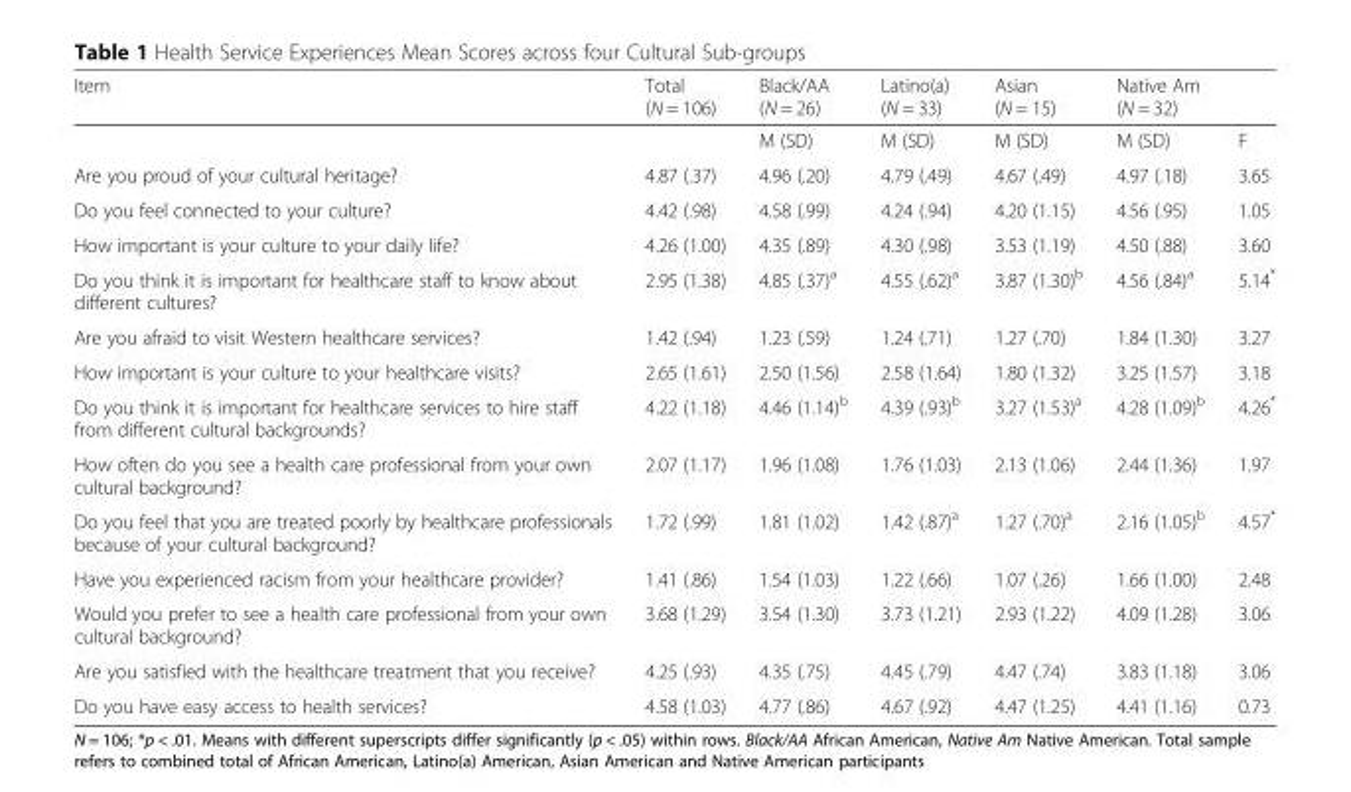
<table><thead><tr><td>Item</td><td>Total (N = 106)</td><td>Black/AA (N = 26)</td><td>Latino(a) (N = 33)</td><td>Asian (N = 15)</td><td>Native Am (N = 32)</td><td></td></tr></thead><tbody><tr><td></td><td></td><td>M (SD)</td><td>M (SD)</td><td>M (SD)</td><td>M (SD)</td><td>F</td></tr><tr><td>Are you proud of your cultural heritage?</td><td>4.87 (.37)</td><td>4.96 (.20)</td><td>4.79 (.49)</td><td>4.67 (.49)</td><td>4.97 (.18)</td><td>3.65</td></tr><tr><td>Do you feel connected to your culture?</td><td>4.42 (.98)</td><td>4.58 (.99)</td><td>4.24 (.94)</td><td>4.20 (1.15)</td><td>4.56 (.95)</td><td>1.05</td></tr><tr><td>How important is your culture to your daily life?</td><td>4.26 (1.00)</td><td>4.35 (.89)</td><td>4.30 (.98)</td><td>3.53 (1.19)</td><td>4.50 (.88)</td><td>3.60</td></tr><tr><td>Do you think it is important for healthcare staff to know about different cultures?</td><td>2.95 (1.38)</td><td>4.85 (.37)<sup>a</sup></td><td>4.55 (.62)<sup>a</sup></td><td>3.87 (1.30)<sup>b</sup></td><td>4.56 (.84)<sup>a</sup></td><td>5.14*</td></tr><tr><td>Are you afraid to visit Western healthcare services?</td><td>1.42 (.94)</td><td>1.23 (.59)</td><td>1.24 (.71)</td><td>1.27 (.70)</td><td>1.84 (1.30)</td><td>3.27</td></tr><tr><td>How important is your culture to your healthcare visits?</td><td>2.65 (1.61)</td><td>2.50 (1.56)</td><td>2.58 (1.64)</td><td>1.80 (1.32)</td><td>3.25 (1.57)</td><td>3.18</td></tr><tr><td>Do you think it is important for healthcare services to hire staff from different cultural backgrounds?</td><td>4.22 (1.18)</td><td>4.46 (1.14)<sup>b</sup></td><td>4.39 (.93)<sup>b</sup></td><td>3.27 (1.53)<sup>a</sup></td><td>4.28 (1.09)<sup>b</sup></td><td>4.26*</td></tr><tr><td>How often do you see a health care professional from your own cultural background?</td><td>2.07 (1.17)</td><td>1.96 (1.08)</td><td>1.76 (1.03)</td><td>2.13 (1.06)</td><td>2.44 (1.36)</td><td>1.97</td></tr><tr><td>Do you feel that you are treated poorly by healthcare professionals because of your cultural background?</td><td>1.72 (.99)</td><td>1.81 (1.02)</td><td>1.42 (.87)<sup>a</sup></td><td>1.27 (.70)<sup>a</sup></td><td>2.16 (1.05)<sup>b</sup></td><td>4.57*</td></tr><tr><td>Have you experienced racism from your healthcare provider?</td><td>1.41 (.86)</td><td>1.54 (1.03)</td><td>1.22 (.66)</td><td>1.07 (.26)</td><td>1.66 (1.00)</td><td>2.48</td></tr><tr><td>Would you prefer to see a health care professional from your own cultural background?</td><td>3.68 (1.29)</td><td>3.54 (1.30)</td><td>3.73 (1.21)</td><td>2.93 (1.22)</td><td>4.09 (1.28)</td><td>3.06</td></tr><tr><td>Are you satisfied with the healthcare treatment that you receive?</td><td>4.25 (.93)</td><td>4.35 (.75)</td><td>4.45 (.79)</td><td>4.47 (.74)</td><td>3.83 (1.18)</td><td>3.06</td></tr><tr><td>Do you have easy access to health services?</td><td>4.58 (1.03)</td><td>4.77 (.86)</td><td>4.67 (.92)</td><td>4.47 (1.25)</td><td>4.41 (1.16)</td><td>0.73</td></tr></tbody></table>